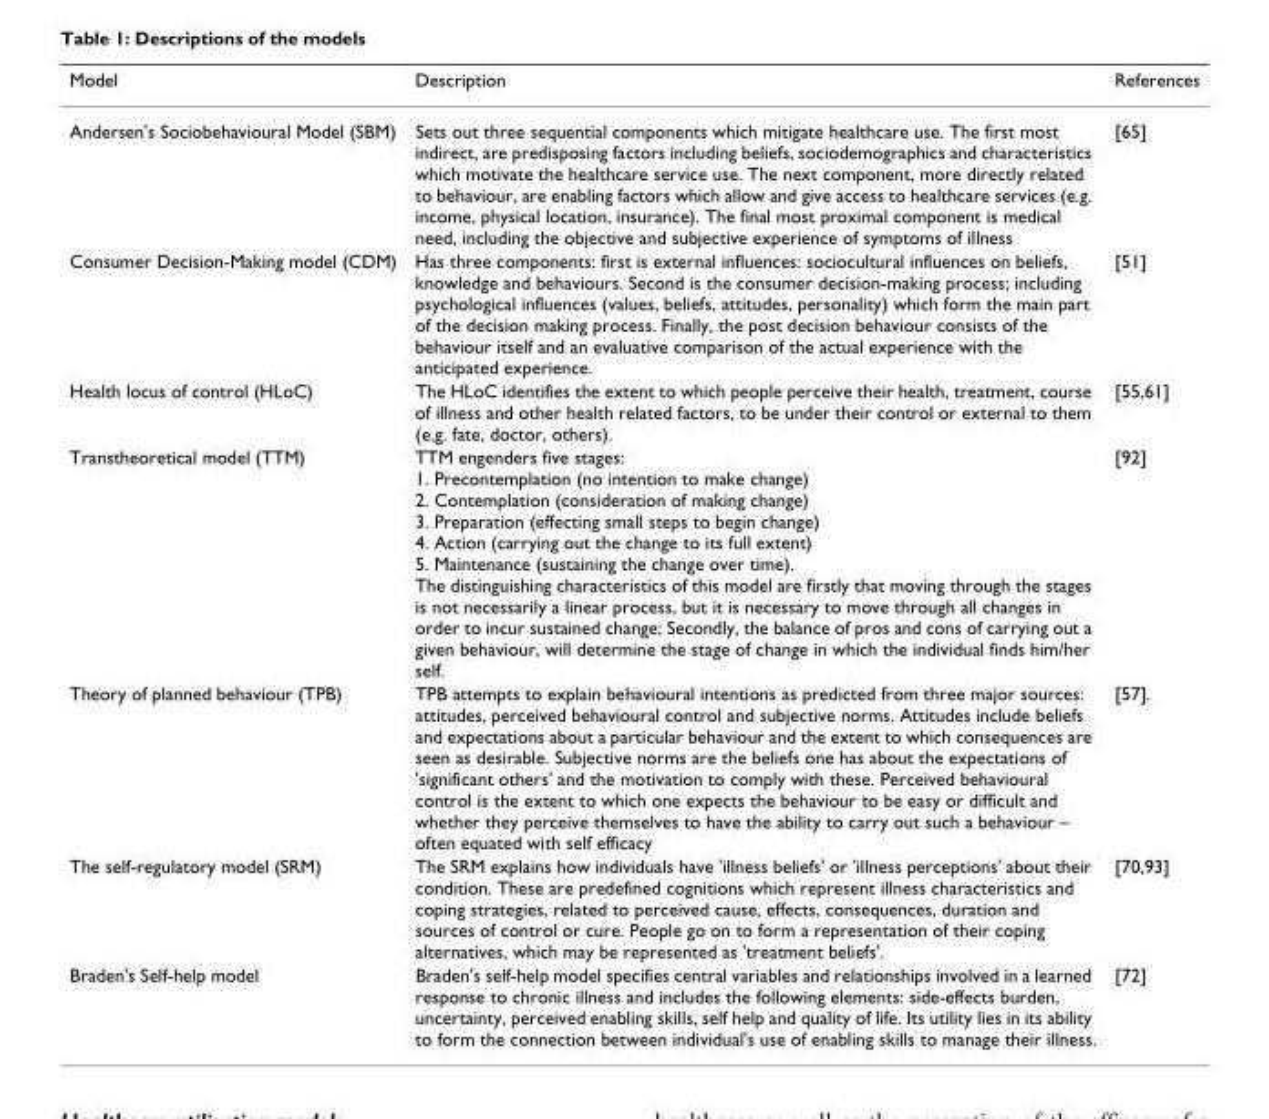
<table><thead><tr><td>Model</td><td>Description</td><td>References</td></tr></thead><tbody><tr><td>Andersen&#x27;s Sociobehavioural Model (SBM)</td><td>Sets out three sequential components which mitigate healthcare use. The first most indirect, are predisposing factors including beliefs, sociodemographics and characteristics which motivate the healthcare service use. The next component, more directly related to behaviour, are enabling factors which allow and give access to healthcare services (e.g. income, physical location, insurance). The final most proximal component is medical need, including the objective and subjective experience of symptoms of illness</td><td>[65]</td></tr><tr><td>Consumer Decision-Making model (CDM)</td><td>Has three components: first is external influences: sociocultural influences on beliefs, knowledge and behaviours. Second is the consumer decision-making process; including psychological influences (values, beliefs, attitudes, personality) which form the main part of the decision making process. Finally, the post decision behaviour consists of the behaviour itself and an evaluative comparison of the actual experience with the anticipated experience.</td><td>[51]</td></tr><tr><td>Health locus of control (HLoC)</td><td>The HLoC identifies the extent to which people perceive their health, treatment, course of illness and other health related factors, to be under their control or external to them (e.g. fate, doctor, others).</td><td>[55,61]</td></tr><tr><td>Transtheoretical model (TTM)</td><td>TTM engenders five stages: 1. Precontemplation (no intention to make change) 2. Contemplation (consideration of making change) 3. Preparation (effecting small steps to begin change) 4. Action (carrying out the change to its full extent) 5. Maintenance (sustaining the change over time). The distinguishing characteristics of this model are firstly that moving through the stages is not necessarily a linear process, but it is necessary to move through all changes in order to incur sustained change; Secondly, the balance of pros and cons of carrying out a given behaviour, will determine the stage of change in which the individual finds him/her self.</td><td>[92]</td></tr><tr><td>Theory of planned behaviour (TPB)</td><td>TPB attempts to explain behavioural intentions as predicted from three major sources: attitudes, perceived behavioural control and subjective norms. Attitudes include beliefs and expectations about a particular behaviour and the extent to which consequences are seen as desirable. Subjective norms are the beliefs one has about the expectations of &#x27;significant others&#x27; and the motivation to comply with these. Perceived behavioural control is the extent to which one expects the behaviour to be easy or difficult and whether they perceive themselves to have the ability to carry out such a behaviour – often equated with self efficacy</td><td>[57].</td></tr><tr><td>The self-regulatory model (SRM)</td><td>The SRM explains how individuals have &#x27;illness beliefs&#x27; or &#x27;illness perceptions&#x27; about their condition. These are predefined cognitions which represent illness characteristics and coping strategies, related to perceived cause, effects, consequences, duration and sources of control or cure. People go on to form a representation of their coping alternatives, which may be represented as &#x27;treatment beliefs&#x27;.</td><td>[70,93]</td></tr><tr><td>Braden&#x27;s Self-help model</td><td>Braden&#x27;s self-help model specifies central variables and relationships involved in a learned response to chronic illness and includes the following elements: side-effects burden, uncertainty, perceived enabling skills, self help and quality of life. Its utility lies in its ability to form the connection between individual&#x27;s use of enabling skills to manage their illness.</td><td>[72]</td></tr></tbody></table>